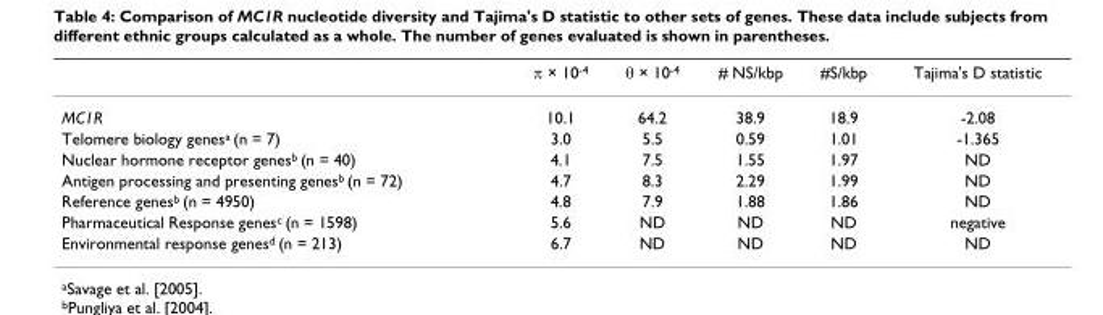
<table><thead><tr><td></td><td>π × 10<sup>-4</sup></td><td>θ × 10<sup>-4</sup></td><td># NS/kbp</td><td>#S/kbp</td><td>Tajima&#x27;s D statistic</td></tr></thead><tbody><tr><td>MC1R</td><td>10.1</td><td>64.2</td><td>38.9</td><td>18.9</td><td>-2.08</td></tr><tr><td>Telomere biology genes<sup>a</sup> (n = 7)</td><td>3.0</td><td>5.5</td><td>0.59</td><td>1.01</td><td>-1.365</td></tr><tr><td>Nuclear hormone receptor genes<sup>b</sup> (n = 40)</td><td>4.1</td><td>7.5</td><td>1.55</td><td>1.97</td><td>ND</td></tr><tr><td>Antigen processing and presenting genes<sup>b</sup> (n = 72)</td><td>4.7</td><td>8.3</td><td>2.29</td><td>1.99</td><td>ND</td></tr><tr><td>Reference genes<sup>b</sup> (n = 4950)</td><td>4.8</td><td>7.9</td><td>1.88</td><td>1.86</td><td>ND</td></tr><tr><td>Pharmaceutical Response genes<sup>c</sup> (n = 1598)</td><td>5.6</td><td>ND</td><td>ND</td><td>ND</td><td>negative</td></tr><tr><td>Environmental response genes<sup>d</sup> (n = 213)</td><td>6.7</td><td>ND</td><td>ND</td><td>ND</td><td>ND</td></tr></tbody></table>